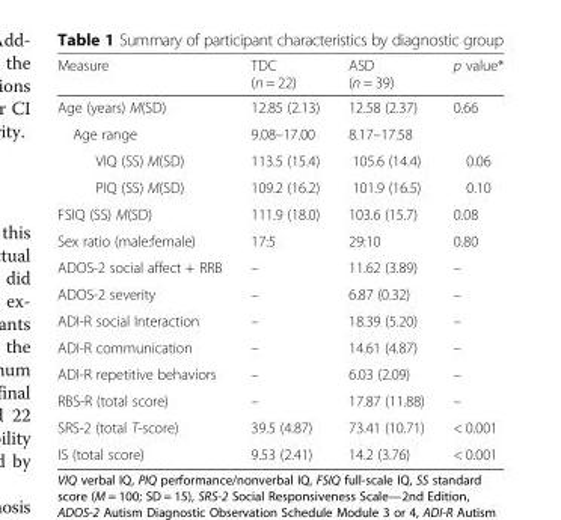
<table><thead><tr><td>Measure</td><td>TDC (n = 22)</td><td>ASD (n = 39)</td><td>p value*</td></tr></thead><tbody><tr><td>Age (years) M(SD)</td><td>12.85 (2.13)</td><td>12.58 (2.37)</td><td>0.66</td></tr><tr><td>Age range</td><td>9.08–17.00</td><td>8.17–17.58</td><td></td></tr><tr><td>VIQ (SS) M(SD)</td><td>113.5 (15.4)</td><td>105.6 (14.4)</td><td>0.06</td></tr><tr><td>PIQ (SS) M(SD)</td><td>109.2 (16.2)</td><td>101.9 (16.5)</td><td>0.10</td></tr><tr><td>FSIQ (SS) M(SD)</td><td>111.9 (18.0)</td><td>103.6 (15.7)</td><td>0.08</td></tr><tr><td>Sex ratio (male:female)</td><td>17:5</td><td>29:10</td><td>0.80</td></tr><tr><td>ADOS-2 social affect + RRB</td><td>–</td><td>11.62 (3.89)</td><td>–</td></tr><tr><td>ADOS-2 severity</td><td>–</td><td>6.87 (0.32)</td><td>–</td></tr><tr><td>ADI-R social Interaction</td><td>–</td><td>18.39 (5.20)</td><td>–</td></tr><tr><td>ADI-R communication</td><td>–</td><td>14.61 (4.87)</td><td>–</td></tr><tr><td>ADI-R repetitive behaviors</td><td>–</td><td>6.03 (2.09)</td><td>–</td></tr><tr><td>RBS-R (total score)</td><td>–</td><td>17.87 (11.88)</td><td>–</td></tr><tr><td>SRS-2 (total T-score)</td><td>39.5 (4.87)</td><td>73.41 (10.71)</td><td>&lt; 0.001</td></tr><tr><td>IS (total score)</td><td>9.53 (2.41)</td><td>14.2 (3.76)</td><td>&lt; 0.001</td></tr></tbody></table>